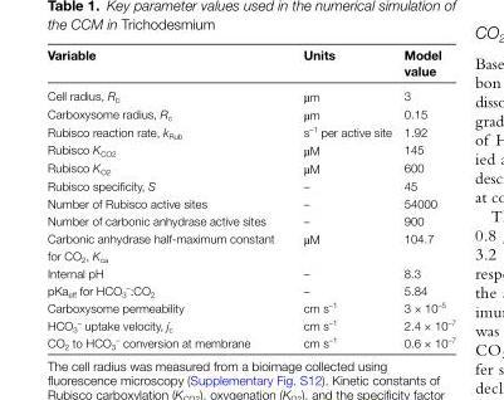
<table><thead><tr><td>Variable</td><td>Units</td><td>Model value</td></tr></thead><tbody><tr><td>Cell radius, R<sub>b</sub></td><td>µm</td><td>3</td></tr><tr><td>Carboxysome radius, R<sub>c</sub></td><td>µm</td><td>0.15</td></tr><tr><td>Rubisco reaction rate, k<sub>Rub</sub></td><td>s<sup>–1</sup> per active site</td><td>1.92</td></tr><tr><td>Rubisco K<sub>CO2</sub></td><td>µM</td><td>145</td></tr><tr><td>Rubisco K<sub>O2</sub></td><td>µM</td><td>600</td></tr><tr><td>Rubisco specificity, S</td><td>–</td><td>45</td></tr><tr><td>Number of Rubisco active sites</td><td>–</td><td>54000</td></tr><tr><td>Number of carbonic anhydrase active sites</td><td>–</td><td>900</td></tr><tr><td>Carbonic anhydrase half-maximum constant for CO<sub>2</sub>, K<sub>ca</sub></td><td>µM</td><td>104.7</td></tr><tr><td>Internal pH</td><td>–</td><td>8.3</td></tr><tr><td>pKa<sub>eff</sub> for HCO<sub>3</sub> <sup>–</sup>:CO<sub>2</sub></td><td>–</td><td>5.84</td></tr><tr><td>Carboxysome permeability</td><td>cm s<sup>–1</sup></td><td>3 × 10<sup>–5</sup></td></tr><tr><td>HCO<sub>3</sub> <sup>–</sup> uptake velocity, j<sub>c</sub></td><td>cm s<sup>–1</sup></td><td>2.4 × 10<sup>–7</sup></td></tr><tr><td>CO<sub>2</sub> to HCO<sub>3</sub> <sup>–</sup> conversion at membrane</td><td>cm s<sup>–1</sup></td><td>0.6 × 10<sup>–7</sup></td></tr></tbody></table>